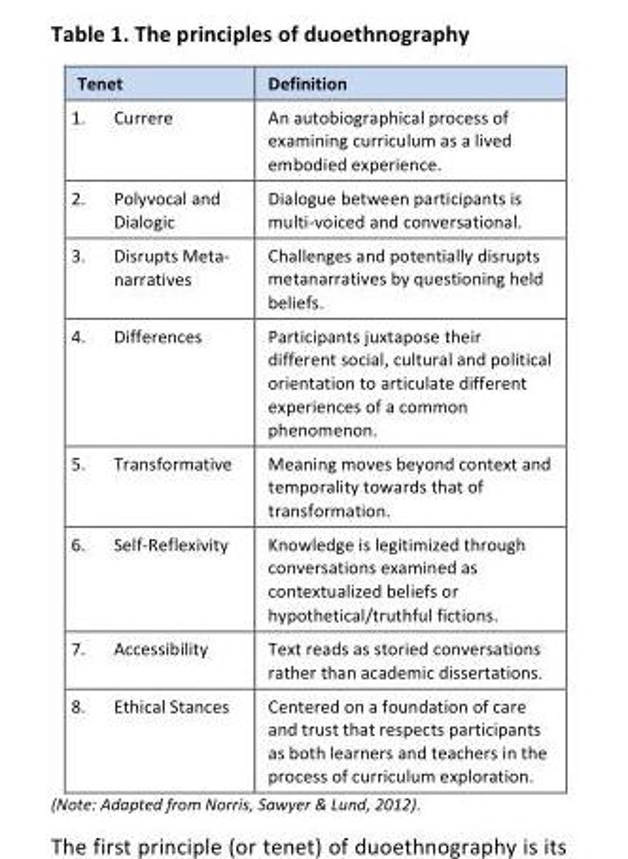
<table><thead><tr><td>Tenet</td><td>Definition</td></tr></thead><tbody><tr><td>1. Currere</td><td>An autobiographical process of examining curriculum as a lived embodied experience.</td></tr><tr><td>2. Polyvocal and Dialogic</td><td>Dialogue between participants is multi-voiced and conversational.</td></tr><tr><td>3. Disrupts Meta- narratives</td><td>Challenges and potentially disrupts metanarratives by questioning held beliefs.</td></tr><tr><td>4. Differences</td><td>Participants juxtapose their different social, cultural and political orientation to articulate different experiences of a common phenomenon.</td></tr><tr><td>5. Transformative</td><td>Meaning moves beyond context and temporality towards that of transformation.</td></tr><tr><td>6. Self-Reflexivity</td><td>Knowledge is legitimized through conversations examined as contextualized beliefs or hypothetical/truthful fictions.</td></tr><tr><td>7. Accessibility</td><td>Text reads as storied conversations rather than academic dissertations.</td></tr><tr><td>8. Ethical Stances</td><td>Centered on a foundation of care and trust that respects participants as both learners and teachers in the process of curriculum exploration.</td></tr></tbody></table>